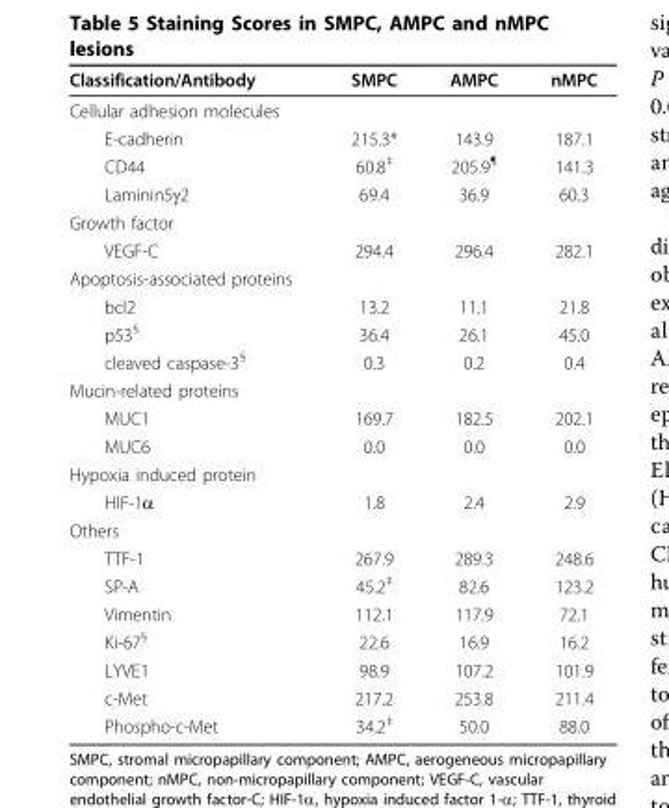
<table><thead><tr><td>Classification/Antibody</td><td>SMPC</td><td>AMPC</td><td>nMPC</td></tr></thead><tbody><tr><td colspan="4">Cellular adhesion molecules</td></tr><tr><td>E-cadherin</td><td>215.3*</td><td>143.9</td><td>187.1</td></tr><tr><td>CD44</td><td>60.8<sup>‡</sup></td><td>205.9<sup>¶</sup></td><td>141.3</td></tr><tr><td>Laminin5γ2</td><td>69.4</td><td>36.9</td><td>60.3</td></tr><tr><td colspan="4">Growth factor</td></tr><tr><td>VEGF-C</td><td>294.4</td><td>296.4</td><td>282.1</td></tr><tr><td colspan="4">Apoptosis-associated proteins</td></tr><tr><td>bcl2</td><td>13.2</td><td>11.1</td><td>21.8</td></tr><tr><td>p53<sup>§</sup></td><td>36.4</td><td>26.1</td><td>45.0</td></tr><tr><td>cleaved caspase-3<sup>§</sup></td><td>0.3</td><td>0.2</td><td>0.4</td></tr><tr><td colspan="4">Mucin-related proteins</td></tr><tr><td>MUC1</td><td>169.7</td><td>182.5</td><td>202.1</td></tr><tr><td>MUC6</td><td>0.0</td><td>0.0</td><td>0.0</td></tr><tr><td colspan="4">Hypoxia induced protein</td></tr><tr><td>HIF-1α</td><td>1.8</td><td>2.4</td><td>2.9</td></tr><tr><td colspan="4">Others</td></tr><tr><td>TTF-1</td><td>267.9</td><td>289.3</td><td>248.6</td></tr><tr><td>SP-A</td><td>45.2<sup>‡</sup></td><td>82.6</td><td>123.2</td></tr><tr><td>Vimentin</td><td>112.1</td><td>117.9</td><td>72.1</td></tr><tr><td>Ki-67<sup>§</sup></td><td>22.6</td><td>16.9</td><td>16.2</td></tr><tr><td>LYVE1</td><td>98.9</td><td>107.2</td><td>101.9</td></tr><tr><td>c-Met</td><td>217.2</td><td>253.8</td><td>211.4</td></tr><tr><td>Phospho-c-Met</td><td>34.2<sup>‡</sup></td><td>50.0</td><td>88.0</td></tr></tbody></table>